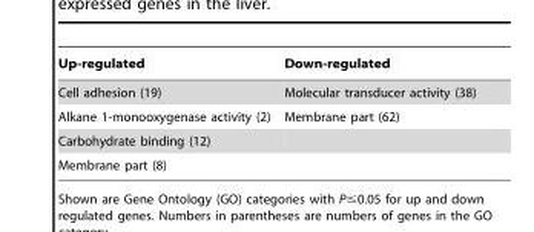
<table><thead><tr><td>Up-regulated</td><td>Down-regulated</td></tr></thead><tbody><tr><td>Cell adhesion (19)</td><td>Molecular transducer activity (38)</td></tr><tr><td>Alkane 1-monooxygenase activity (2)</td><td>Membrane part (62)</td></tr><tr><td colspan="2">Carbohydrate binding (12)</td></tr><tr><td>Membrane part (8)</td><td></td></tr></tbody></table>